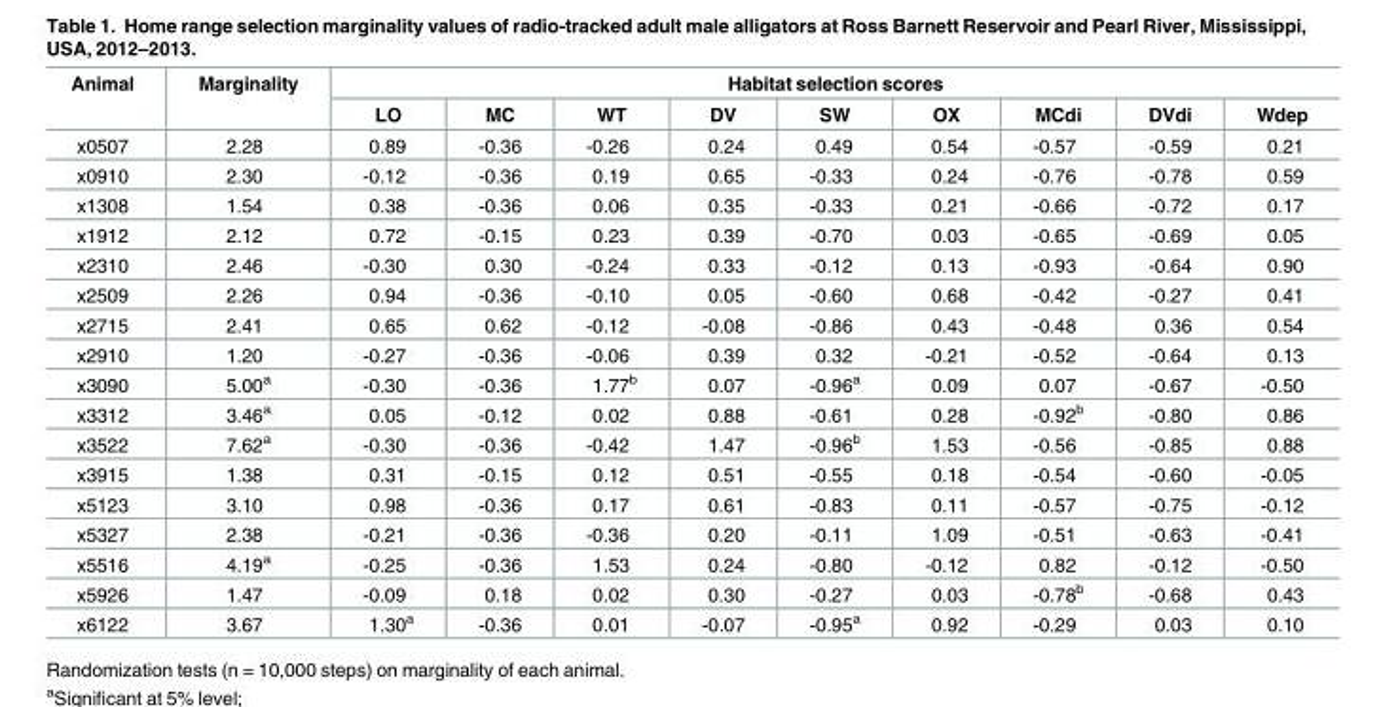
<table><thead><tr><td rowspan="2">Animal</td><td rowspan="2">Marginality</td><td colspan="9">Habitat selection scores</td></tr><tr><td>LO</td><td>MC</td><td>WT</td><td>DV</td><td>SW</td><td>OX</td><td>MCdi</td><td>DVdi</td><td>Wdep</td></tr></thead><tbody><tr><td>x0507</td><td>2.28</td><td>0.89</td><td>-0.36</td><td>-0.26</td><td>0.24</td><td>0.49</td><td>0.54</td><td>-0.57</td><td>-0.59</td><td>0.21</td></tr><tr><td>x0910</td><td>2.30</td><td>-0.12</td><td>-0.36</td><td>0.19</td><td>0.65</td><td>-0.33</td><td>0.24</td><td>-0.76</td><td>-0.78</td><td>0.59</td></tr><tr><td>x1308</td><td>1.54</td><td>0.38</td><td>-0.36</td><td>0.06</td><td>0.35</td><td>-0.33</td><td>0.21</td><td>-0.66</td><td>-0.72</td><td>0.17</td></tr><tr><td>x1912</td><td>2.12</td><td>0.72</td><td>-0.15</td><td>0.23</td><td>0.39</td><td>-0.70</td><td>0.03</td><td>-0.65</td><td>-0.69</td><td>0.05</td></tr><tr><td>x2310</td><td>2.46</td><td>-0.30</td><td>0.30</td><td>-0.24</td><td>0.33</td><td>-0.12</td><td>0.13</td><td>-0.93</td><td>-0.64</td><td>0.90</td></tr><tr><td>x2509</td><td>2.26</td><td>0.94</td><td>-0.36</td><td>-0.10</td><td>0.05</td><td>-0.60</td><td>0.68</td><td>-0.42</td><td>-0.27</td><td>0.41</td></tr><tr><td>x2715</td><td>2.41</td><td>0.65</td><td>0.62</td><td>-0.12</td><td>-0.08</td><td>-0.86</td><td>0.43</td><td>-0.48</td><td>0.36</td><td>0.54</td></tr><tr><td>x2910</td><td>1.20</td><td>-0.27</td><td>-0.36</td><td>-0.06</td><td>0.39</td><td>0.32</td><td>-0.21</td><td>-0.52</td><td>-0.64</td><td>0.13</td></tr><tr><td>x3090</td><td>5.00<sup>a</sup></td><td>-0.30</td><td>-0.36</td><td>1.77<sup>b</sup></td><td>0.07</td><td>-0.96<sup>a</sup></td><td>0.09</td><td>0.07</td><td>-0.67</td><td>-0.50</td></tr><tr><td>x3312</td><td>3.46<sup>a</sup></td><td>0.05</td><td>-0.12</td><td>0.02</td><td>0.88</td><td>-0.61</td><td>0.28</td><td>-0.92<sup>b</sup></td><td>-0.80</td><td>0.86</td></tr><tr><td>x3522</td><td>7.62<sup>a</sup></td><td>-0.30</td><td>-0.36</td><td>-0.42</td><td>1.47</td><td>-0.96<sup>b</sup></td><td>1.53</td><td>-0.56</td><td>-0.85</td><td>0.88</td></tr><tr><td>x3915</td><td>1.38</td><td>0.31</td><td>-0.15</td><td>0.12</td><td>0.51</td><td>-0.55</td><td>0.18</td><td>-0.54</td><td>-0.60</td><td>-0.05</td></tr><tr><td>x5123</td><td>3.10</td><td>0.98</td><td>-0.36</td><td>0.17</td><td>0.61</td><td>-0.83</td><td>0.11</td><td>-0.57</td><td>-0.75</td><td>-0.12</td></tr><tr><td>x5327</td><td>2.38</td><td>-0.21</td><td>-0.36</td><td>-0.36</td><td>0.20</td><td>-0.11</td><td>1.09</td><td>-0.51</td><td>-0.63</td><td>-0.41</td></tr><tr><td>x5516</td><td>4.19<sup>a</sup></td><td>-0.25</td><td>-0.36</td><td>1.53</td><td>0.24</td><td>-0.80</td><td>-0.12</td><td>0.82</td><td>-0.12</td><td>-0.50</td></tr><tr><td>x5926</td><td>1.47</td><td>-0.09</td><td>0.18</td><td>0.02</td><td>0.30</td><td>-0.27</td><td>0.03</td><td>-0.78<sup>b</sup></td><td>-0.68</td><td>0.43</td></tr><tr><td>x6122</td><td>3.67</td><td>1.30<sup>a</sup></td><td>-0.36</td><td>0.01</td><td>-0.07</td><td>-0.95<sup>a</sup></td><td>0.92</td><td>-0.29</td><td>0.03</td><td>0.10</td></tr></tbody></table>